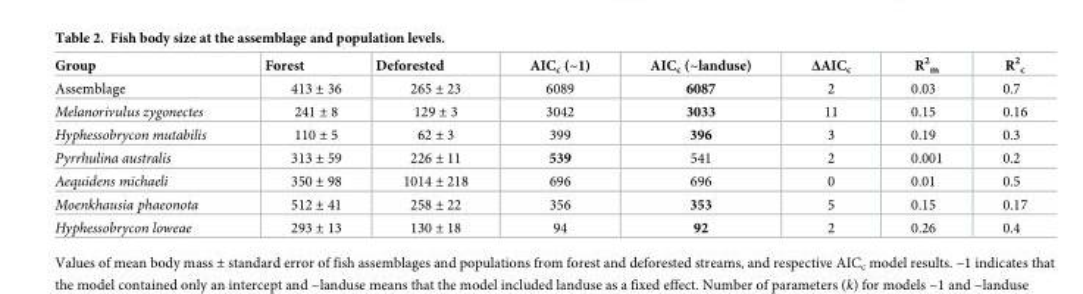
<table><thead><tr><td>Group</td><td>Forest</td><td>Deforested</td><td>AIC<sub>c</sub> (~1)</td><td>AIC<sub>c</sub> (~landuse)</td><td>ΔAIC<sub>c</sub></td><td>R<sup>2</sup> <sub>m</sub></td><td>R<sup>2</sup> <sub>c</sub></td></tr></thead><tbody><tr><td>Assemblage</td><td>413 ± 36</td><td>265 ± 23</td><td>6089</td><td>6087</td><td>2</td><td>0.03</td><td>0.7</td></tr><tr><td>Melanorivulus zygonectes</td><td>241 ± 8</td><td>129 ± 3</td><td>3042</td><td>3033</td><td>11</td><td>0.15</td><td>0.16</td></tr><tr><td>Hyphessobrycon mutabilis</td><td>110 ± 5</td><td>62 ± 3</td><td>399</td><td>396</td><td>3</td><td>0.19</td><td>0.3</td></tr><tr><td>Pyrrhulina australis</td><td>313 ± 59</td><td>226 ± 11</td><td>539</td><td>541</td><td>2</td><td>0.001</td><td>0.2</td></tr><tr><td>Aequidens michaeli</td><td>350 ± 98</td><td>1014 ± 218</td><td>696</td><td>696</td><td>0</td><td>0.01</td><td>0.5</td></tr><tr><td>Moenkhausia phaeonota</td><td>512 ± 41</td><td>258 ± 22</td><td>356</td><td>353</td><td>5</td><td>0.15</td><td>0.17</td></tr><tr><td>Hyphessobrycon loweae</td><td>293 ± 13</td><td>130 ± 18</td><td>94</td><td>92</td><td>2</td><td>0.26</td><td>0.4</td></tr></tbody></table>